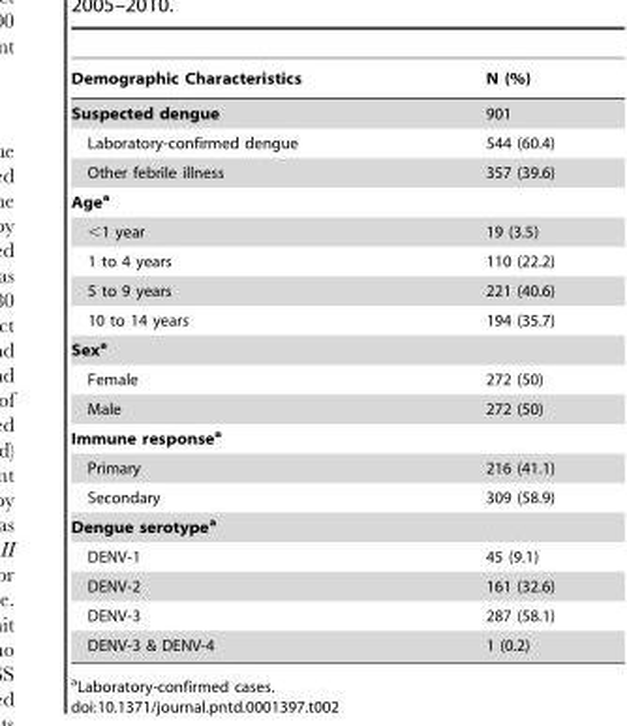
<table><thead><tr><td>Demographic Characteristics</td><td>N (%)</td></tr></thead><tbody><tr><td>Suspected dengue</td><td>901</td></tr><tr><td>Laboratory-confirmed dengue</td><td>544 (60.4)</td></tr><tr><td>Other febrile illness</td><td>357 (39.6)</td></tr><tr><td colspan="2">Agea</td></tr><tr><td>&lt;1 year</td><td>19 (3.5)</td></tr><tr><td>1 to 4 years</td><td>110 (22.2)</td></tr><tr><td>5 to 9 years</td><td>221 (40.6)</td></tr><tr><td>10 to 14 years</td><td>194 (35.7)</td></tr><tr><td colspan="2">Sexa</td></tr><tr><td>Female</td><td>272 (50)</td></tr><tr><td>Male</td><td>272 (50)</td></tr><tr><td colspan="2">Immune responsea</td></tr><tr><td>Primary</td><td>216 (41.1)</td></tr><tr><td>Secondary</td><td>309 (58.9)</td></tr><tr><td colspan="2">Dengue serotypea</td></tr><tr><td>DENV-1</td><td>45 (9.1)</td></tr><tr><td>DENV-2</td><td>161 (32.6)</td></tr><tr><td>DENV-3</td><td>287 (58.1)</td></tr><tr><td>DENV-3 &amp; DENV-4</td><td>1 (0.2)</td></tr></tbody></table>